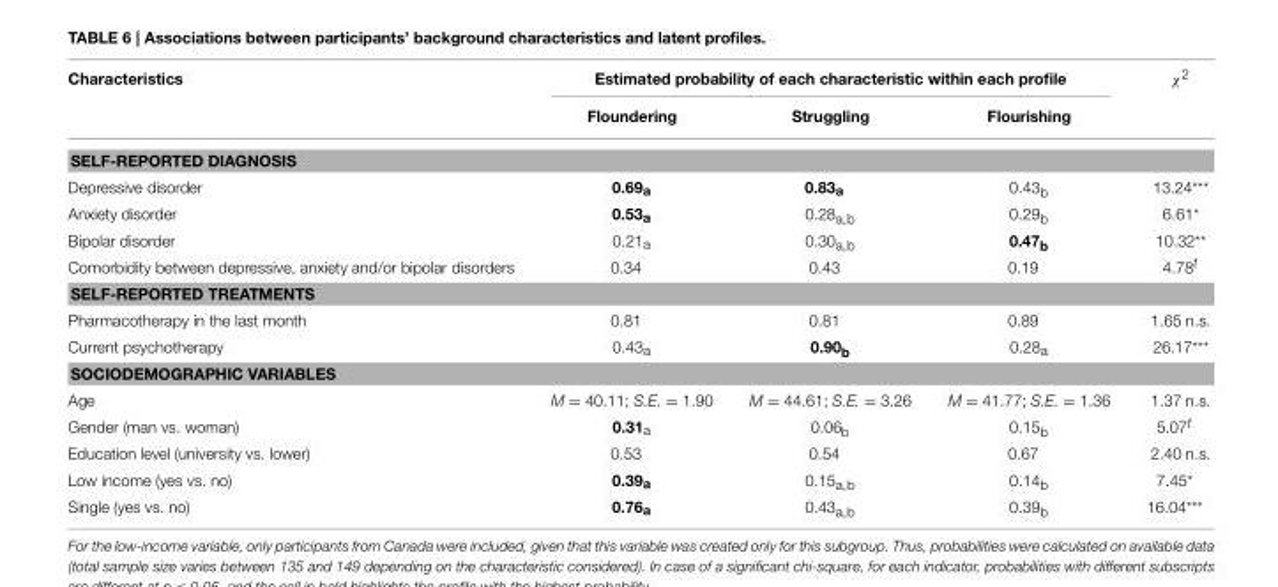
<table><thead><tr><td rowspan="2">Characteristics</td><td colspan="3">Estimated probability of each characteristic within each profile</td><td rowspan="2">χ<sup>2</sup></td></tr><tr><td>Floundering</td><td>Struggling</td><td>Flourishing</td></tr></thead><tbody><tr><td colspan="5">SELF-REPORTED DIAGNOSIS</td></tr><tr><td>Depressive disorder</td><td>0.69<sub>a</sub></td><td>0.83<sub>a</sub></td><td>0.43<sub>b</sub></td><td>13.24***</td></tr><tr><td>Anxiety disorder</td><td>0.53<sub>a</sub></td><td>0.28<sub>a,b</sub></td><td>0.29<sub>b</sub></td><td>6.61*</td></tr><tr><td>Bipolar disorder</td><td>0.21<sub>a</sub></td><td>0.30<sub>a,b</sub></td><td>0.47<sub>b</sub></td><td>10.32**</td></tr><tr><td>Comorbidity between depressive, anxiety and/or bipolar disorders</td><td>0.34</td><td>0.43</td><td>0.19</td><td>4.78<sup>t</sup></td></tr><tr><td colspan="5">SELF-REPORTED TREATMENTS</td></tr><tr><td>Pharmacotherapy in the last month</td><td>0.81</td><td>0.81</td><td>0.89</td><td>1.65 n.s.</td></tr><tr><td>Current psychotherapy</td><td>0.43<sub>a</sub></td><td>0.90<sub>b</sub></td><td>0.28<sub>a</sub></td><td>26.17***</td></tr><tr><td colspan="5">SOCIODEMOGRAPHIC VARIABLES</td></tr><tr><td>Age</td><td>M = 40.11; S.E. = 1.90</td><td>M = 44.61; S.E. = 3.26</td><td>M = 41.77; S.E. = 1.36</td><td>1.37 n.s.</td></tr><tr><td>Gender (man vs. woman)</td><td>0.31<sub>a</sub></td><td>0.06<sub>b</sub></td><td>0.15<sub>b</sub></td><td>5.07<sup>t</sup></td></tr><tr><td>Education level (university vs. lower)</td><td>0.53</td><td>0.54</td><td>0.67</td><td>2.40 n.s.</td></tr><tr><td>Low income (yes vs. no)</td><td>0.39<sub>a</sub></td><td>0.15<sub>a,b</sub></td><td>0.14<sub>b</sub></td><td>7.45*</td></tr><tr><td>Single (yes vs. no)</td><td>0.76<sub>a</sub></td><td>0.43<sub>a,b</sub></td><td>0.39<sub>b</sub></td><td>16.04***</td></tr></tbody></table>